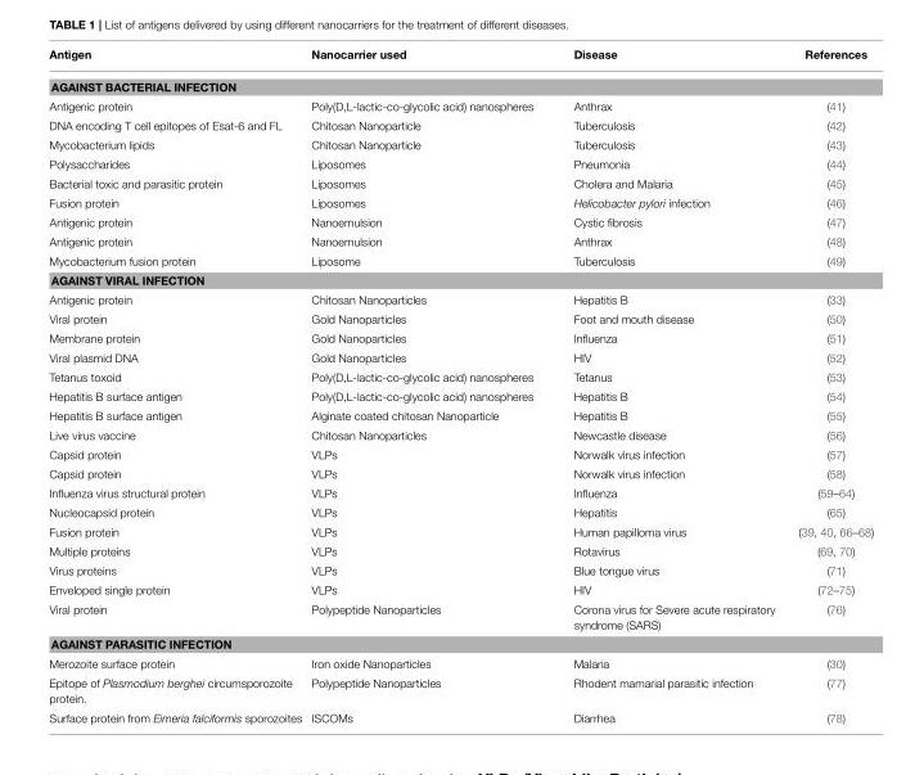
<table><thead><tr><td>Antigen</td><td>Nanocarrier used</td><td>Disease</td><td>References</td></tr></thead><tbody><tr><td colspan="4">AGAINST BACTERIAL INFECTION</td></tr><tr><td>Antigenic protein</td><td>Poly(D,L-lactic-co-glycolic acid) nanospheres</td><td>Anthrax</td><td>(41)</td></tr><tr><td>DNA encoding T cell epitopes of Esat-6 and FL</td><td>Chitosan Nanoparticle</td><td>Tuberculosis</td><td>(42)</td></tr><tr><td>Mycobacterium lipids</td><td>Chitosan Nanoparticle</td><td>Tuberculosis</td><td>(43)</td></tr><tr><td>Polysaccharides</td><td>Liposomes</td><td>Pneumonia</td><td>(44)</td></tr><tr><td>Bacterial toxic and parasitic protein</td><td>Liposomes</td><td>Cholera and Malaria</td><td>(45)</td></tr><tr><td>Fusion protein</td><td>Liposomes</td><td>Helicobacter pylori infection</td><td>(46)</td></tr><tr><td>Antigenic protein</td><td>Nanoemulsion</td><td>Cystic fibrosis</td><td>(47)</td></tr><tr><td>Antigenic protein</td><td>Nanoemulsion</td><td>Anthrax</td><td>(48)</td></tr><tr><td>Mycobacterium fusion protein</td><td>Liposome</td><td>Tuberculosis</td><td>(49)</td></tr><tr><td colspan="4">AGAINST VIRAL INFECTION</td></tr><tr><td>Antigenic protein</td><td>Chitosan Nanoparticles</td><td>Hepatitis B</td><td>(33)</td></tr><tr><td>Viral protein</td><td>Gold Nanoparticles</td><td>Foot and mouth disease</td><td>(50)</td></tr><tr><td>Membrane protein</td><td>Gold Nanoparticles</td><td>Influenza</td><td>(51)</td></tr><tr><td>Viral plasmid DNA</td><td>Gold Nanoparticles</td><td>HIV</td><td>(52)</td></tr><tr><td>Tetanus toxoid</td><td>Poly(D,L-lactic-co-glycolic acid) nanospheres</td><td>Tetanus</td><td>(53)</td></tr><tr><td>Hepatitis B surface antigen</td><td>Poly(D,L-lactic-co-glycolic acid) nanospheres</td><td>Hepatitis B</td><td>(54)</td></tr><tr><td>Hepatitis B surface antigen</td><td>Alginate coated chitosan Nanoparticle</td><td>Hepatitis B</td><td>(55)</td></tr><tr><td>Live virus vaccine</td><td>Chitosan Nanoparticles</td><td>Newcastle disease</td><td>(56)</td></tr><tr><td>Capsid protein</td><td>VLPs</td><td>Norwalk virus infection</td><td>(57)</td></tr><tr><td>Capsid protein</td><td>VLPs</td><td>Norwalk virus infection</td><td>(58)</td></tr><tr><td>Influenza virus structural protein</td><td>VLPs</td><td>Influenza</td><td>(59–64)</td></tr><tr><td>Nucleocapsid protein</td><td>VLPs</td><td>Hepatitis</td><td>(65)</td></tr><tr><td>Fusion protein</td><td>VLPs</td><td>Human papilloma virus</td><td>(39, 40, 66–68)</td></tr><tr><td>Multiple proteins</td><td>VLPs</td><td>Rotavirus</td><td>(69, 70)</td></tr><tr><td>Virus proteins</td><td>VLPs</td><td>Blue tongue virus</td><td>(71)</td></tr><tr><td>Enveloped single protein</td><td>VLPs</td><td>HIV</td><td>(72–75)</td></tr><tr><td>Viral protein</td><td>Polypeptide Nanoparticles</td><td>Corona virus for Severe acute respiratory syndrome (SARS)</td><td>(76)</td></tr><tr><td colspan="4">AGAINST PARASITIC INFECTION</td></tr><tr><td>Merozoite surface protein</td><td>Iron oxide Nanoparticles</td><td>Malaria</td><td>(30)</td></tr><tr><td>Epitope of Plasmodium berghei circumsporozoite protein.</td><td>Polypeptide Nanoparticles</td><td>Rhodent mamarial parasitic infection</td><td>(77)</td></tr><tr><td>Surface protein from Eimeria falciformis sporozoites</td><td>ISCOMs</td><td>Diarrhea</td><td>(78)</td></tr></tbody></table>